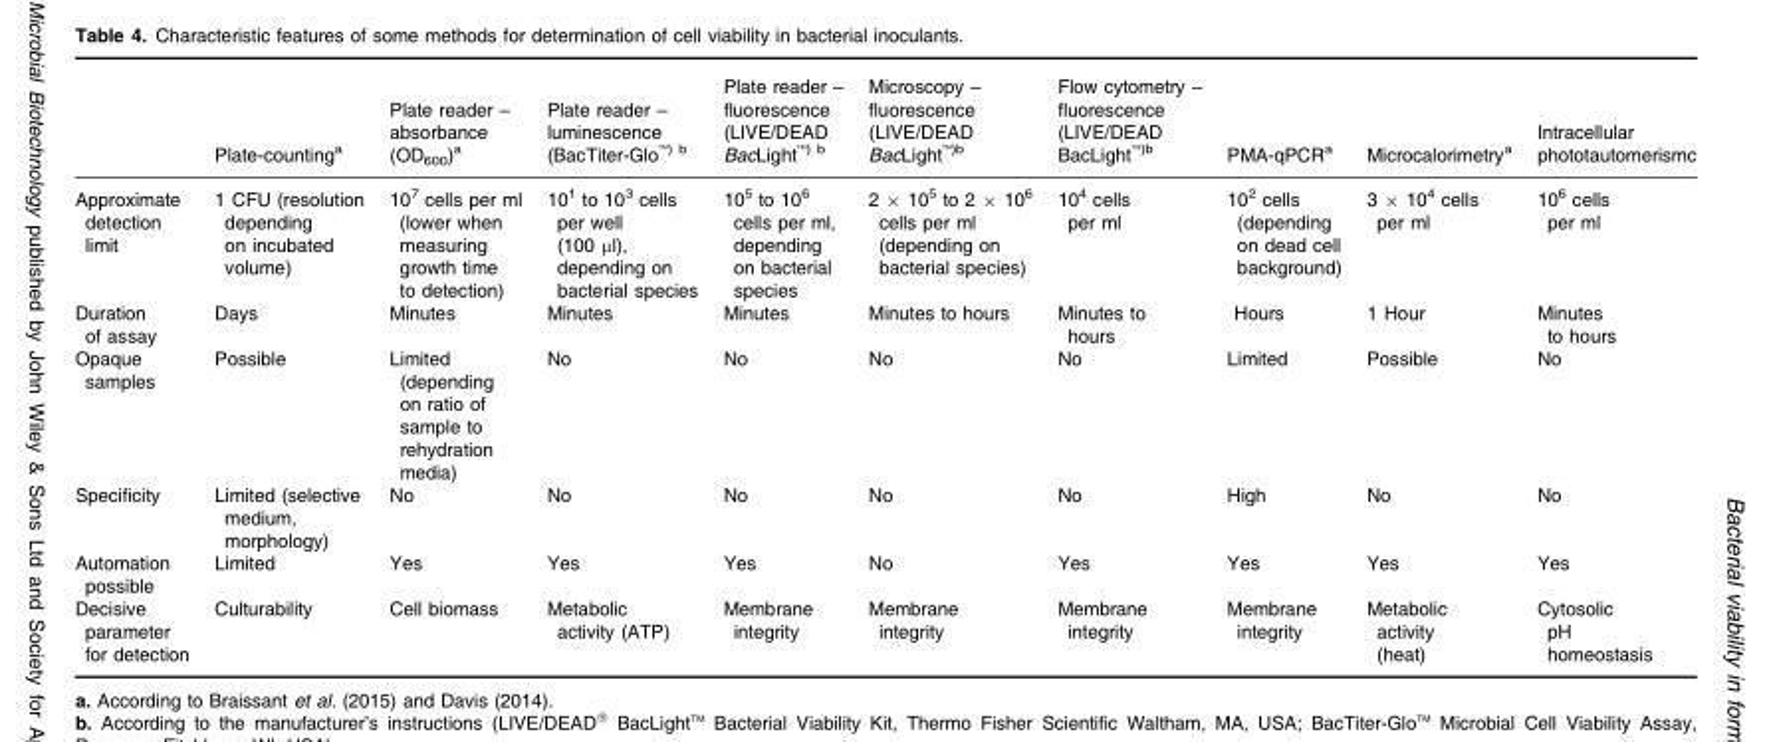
<table><thead><tr><td></td><td>Plate-counting<sup>a</sup></td><td>Plate reader – absorbance (OD<sub>600</sub>)<sup>a</sup></td><td>Plate reader – luminescence (BacTiter-Glo <sup>TM</sup>) b</td><td>Plate reader – fluorescence (LIVE/DEAD BacLight <sup>TM</sup>) b</td><td>Microscopy – fluorescence (LIVE/DEAD BacLight <sup>TM</sup>)<sup>b</sup></td><td>Flow cytometry – fluorescence (LIVE/DEAD BacLight <sup>TM</sup>)<sup>b</sup></td><td>PMA-qPCR<sup>a</sup></td><td>Microcalorimetry<sup>a</sup></td><td>Intracellular phototautomerismc</td></tr></thead><tbody><tr><td>Approximate detection limit</td><td>1 CFU (resolution depending on incubated volume)</td><td>10<sup>7</sup> cells per ml (lower when measuring growth time to detection)</td><td>10<sup>1</sup> to 10<sup>3</sup> cells per well (100 μl), depending on bacterial species</td><td>10<sup>5</sup> to 10<sup>6</sup> cells per ml, depending on bacterial species</td><td>2 × 10<sup>5</sup> to 2 × 10<sup>6</sup> cells per ml (depending on bacterial species)</td><td>10<sup>4</sup> cells per ml</td><td>10<sup>2</sup> cells (depending on dead cell background)</td><td>3 × 10<sup>4</sup> cells per ml</td><td>10<sup>6</sup> cells per ml</td></tr><tr><td>Duration of assay</td><td>Days</td><td>Minutes</td><td>Minutes</td><td>Minutes</td><td>Minutes to hours</td><td>Minutes to hours</td><td>Hours</td><td>1 Hour</td><td>Minutes to hours</td></tr><tr><td>Opaque samples</td><td>Possible</td><td>Limited (depending on ratio of sample to rehydration media)</td><td>No</td><td>No</td><td>No</td><td>No</td><td>Limited</td><td>Possible</td><td>No</td></tr><tr><td>Specificity</td><td>Limited (selective medium, morphology)</td><td>No</td><td>No</td><td>No</td><td>No</td><td>No</td><td>High</td><td>No</td><td>No</td></tr><tr><td>Automation possible</td><td>Limited</td><td>Yes</td><td>Yes</td><td>Yes</td><td>No</td><td>Yes</td><td>Yes</td><td>Yes</td><td>Yes</td></tr><tr><td>Decisive parameter for detection</td><td>Culturability</td><td>Cell biomass</td><td>Metabolic activity (ATP)</td><td>Membrane integrity</td><td>Membrane integrity</td><td>Membrane integrity</td><td>Membrane integrity</td><td>Metabolic activity (heat)</td><td>Cytosolic pH homeostasis</td></tr></tbody></table>